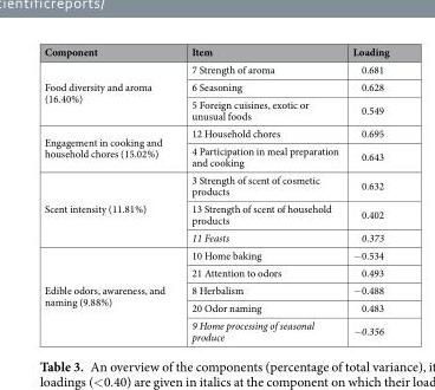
<table><thead><tr><td>Component</td><td>Item</td><td>Loading</td></tr></thead><tbody><tr><td rowspan="3">Food diversity and aroma (16.40%)</td><td>7 Strength of aroma</td><td>0.681</td></tr><tr><td>6 Seasoning</td><td>0.628</td></tr><tr><td>5 Foreign cuisines, exotic or unusual foods</td><td>0.549</td></tr><tr><td rowspan="2">Engagement in cooking and household chores (15.02%)</td><td>12 Household chores</td><td>0.695</td></tr><tr><td>4 Participation in meal preparation and cooking</td><td>0.643</td></tr><tr><td rowspan="3">Scent intensity (11.81%)</td><td>3 Strength of scent of cosmetic products</td><td>0.632</td></tr><tr><td>13 Strength of scent of household products</td><td>0.402</td></tr><tr><td>11 Feasts</td><td>0.373</td></tr><tr><td rowspan="5">Edible odors, awareness, and naming (9.88%)</td><td>10 Home baking</td><td>−0.534</td></tr><tr><td>21 Attention to odors</td><td>0.493</td></tr><tr><td>8 Herbalism</td><td>−0.488</td></tr><tr><td>20 Odor naming</td><td>0.483</td></tr><tr><td>9 Home processing of seasonal produce</td><td>−0.356</td></tr></tbody></table>